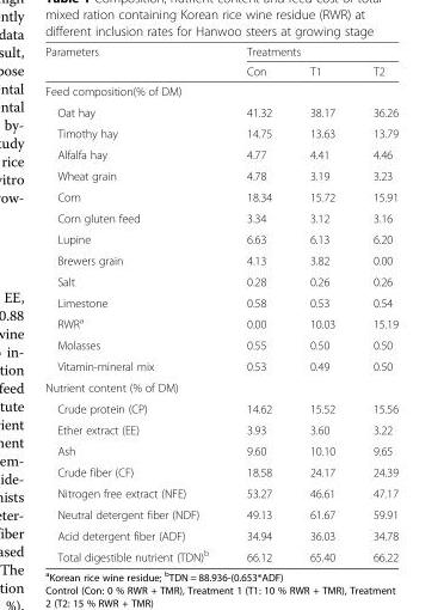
<table><thead><tr><td rowspan="2">Parameters</td><td colspan="3">Treatments</td></tr><tr><td>Con</td><td>T1</td><td>T2</td></tr></thead><tbody><tr><td colspan="4">Feed composition(% of DM)</td></tr><tr><td>Oat hay</td><td>41.32</td><td>38.17</td><td>36.26</td></tr><tr><td>Timothy hay</td><td>14.75</td><td>13.63</td><td>13.79</td></tr><tr><td>Alfalfa hay</td><td>4.77</td><td>4.41</td><td>4.46</td></tr><tr><td>Wheat grain</td><td>4.78</td><td>3.19</td><td>3.23</td></tr><tr><td>Corn</td><td>18.34</td><td>15.72</td><td>15.91</td></tr><tr><td>Corn gluten feed</td><td>3.34</td><td>3.12</td><td>3.16</td></tr><tr><td>Lupine</td><td>6.63</td><td>6.13</td><td>6.20</td></tr><tr><td>Brewers grain</td><td>4.13</td><td>3.82</td><td>0.00</td></tr><tr><td>Salt</td><td>0.28</td><td>0.26</td><td>0.26</td></tr><tr><td>Limestone</td><td>0.58</td><td>0.53</td><td>0.54</td></tr><tr><td>RWR<sup>a</sup></td><td>0.00</td><td>10.03</td><td>15.19</td></tr><tr><td>Molasses</td><td>0.55</td><td>0.50</td><td>0.50</td></tr><tr><td>Vitamin-mineral mix</td><td>0.53</td><td>0.49</td><td>0.50</td></tr><tr><td colspan="4">Nutrient content (% of DM)</td></tr><tr><td>Crude protein (CP)</td><td>14.62</td><td>15.52</td><td>15.56</td></tr><tr><td>Ether extract (EE)</td><td>3.93</td><td>3.60</td><td>3.22</td></tr><tr><td>Ash</td><td>9.60</td><td>10.10</td><td>9.65</td></tr><tr><td>Crude fiber (CF)</td><td>18.58</td><td>24.17</td><td>24.39</td></tr><tr><td>Nitrogen free extract (NFE)</td><td>53.27</td><td>46.61</td><td>47.17</td></tr><tr><td>Neutral detergent fiber (NDF)</td><td>49.13</td><td>61.67</td><td>59.91</td></tr><tr><td>Acid detergent fiber (ADF)</td><td>34.94</td><td>36.03</td><td>34.78</td></tr><tr><td>Total digestible nutrient (TDN)<sup>b</sup></td><td>66.12</td><td>65.40</td><td>66.22</td></tr></tbody></table>